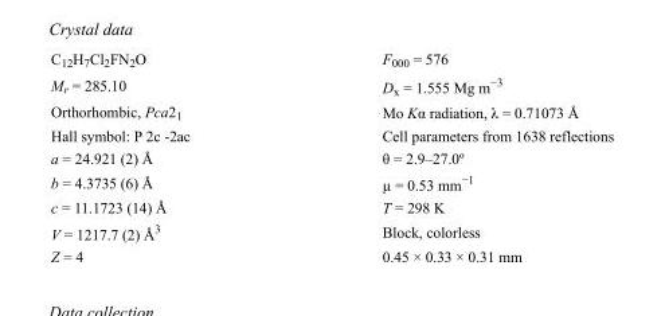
<table><tbody><tr><td>C<sub>12</sub>H<sub>7</sub>Cl<sub>2</sub>FN<sub>2</sub>O</td><td>F000 = 576</td></tr><tr><td>M<sub>r</sub> = 285.10</td><td>D<sub>x</sub> = 1.555 Mg m<sup>−3</sup></td></tr><tr><td>Orthorhombic, Pca2<sub>1</sub></td><td>Mo Kα radiation, λ = 0.71073 Å</td></tr><tr><td>Hall symbol: P 2c -2ac</td><td>Cell parameters from 1638 reflections</td></tr><tr><td>a = 24.921 (2) Å</td><td>θ = 2.9–27.0º</td></tr><tr><td>b = 4.3735 (6) Å</td><td>µ = 0.53 mm<sup>−1</sup></td></tr><tr><td>c = 11.1723 (14) Å</td><td>T = 298 K</td></tr><tr><td>V = 1217.7 (2) Å<sup>3</sup></td><td>Block, colorless</td></tr><tr><td>Z = 4</td><td>0.45 × 0.33 × 0.31 mm</td></tr></tbody></table>